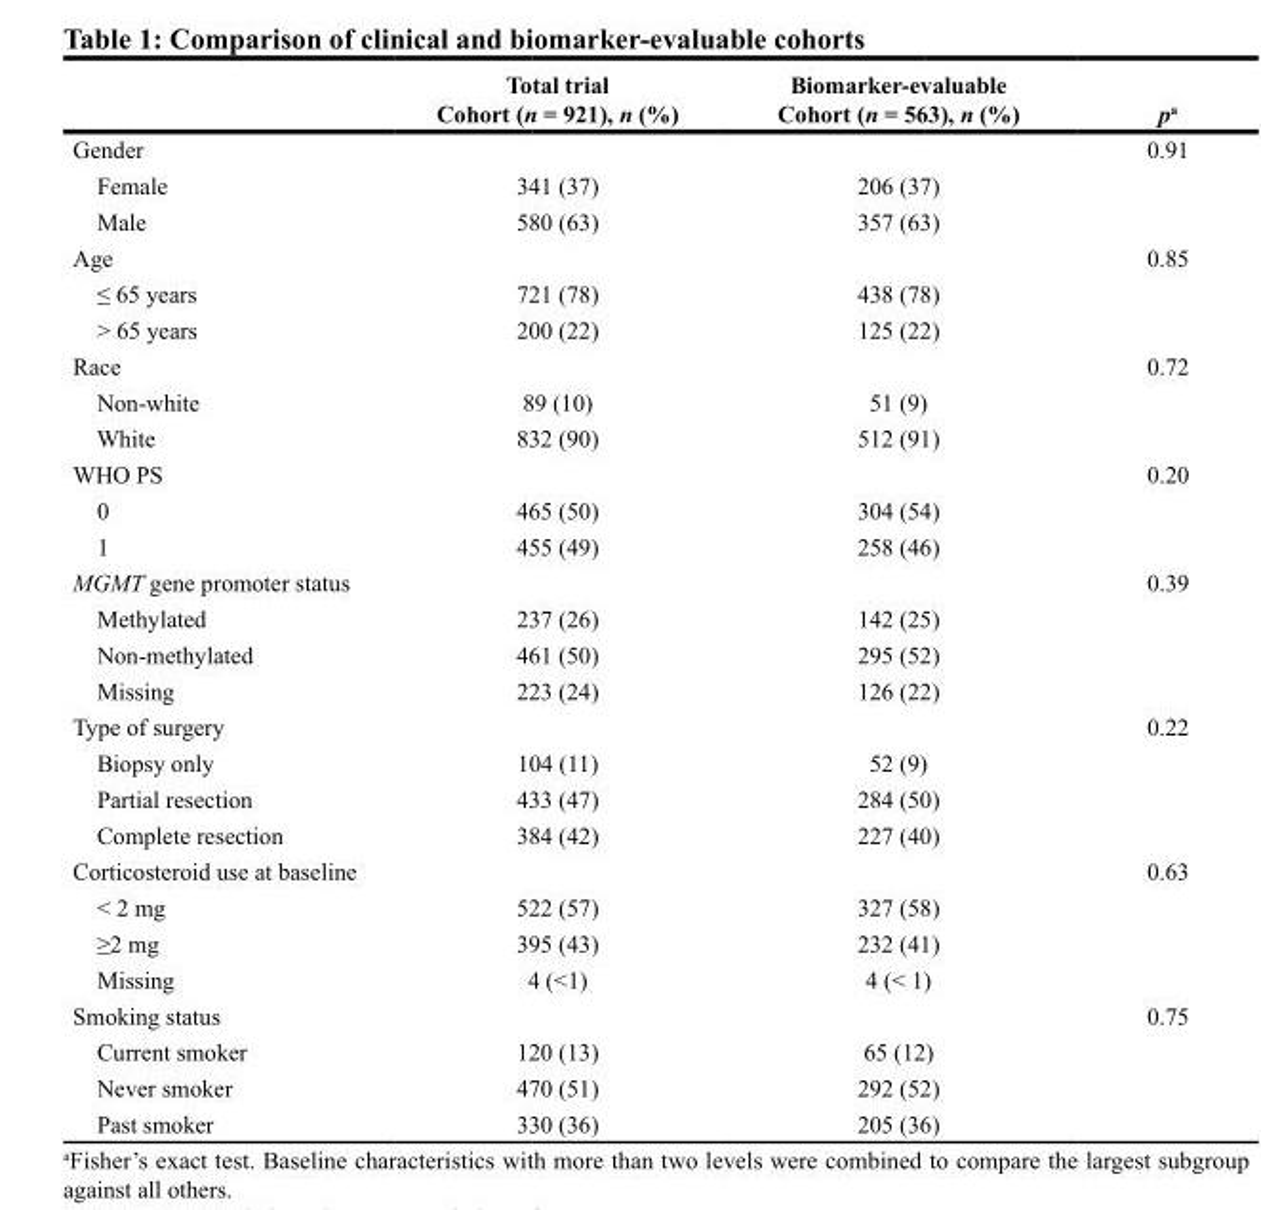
<table><thead><tr><td></td><td>Total trial Cohort (n = 921), n (%)</td><td>Biomarker-evaluable Cohort (n = 563), n (%)</td><td>p<sup>a</sup></td></tr></thead><tbody><tr><td>Gender</td><td></td><td></td><td>0.91</td></tr><tr><td>Female</td><td>341 (37)</td><td>206 (37)</td><td></td></tr><tr><td>Male</td><td>580 (63)</td><td>357 (63)</td><td></td></tr><tr><td>Age</td><td></td><td></td><td>0.85</td></tr><tr><td>≤ 65 years</td><td>721 (78)</td><td>438 (78)</td><td></td></tr><tr><td>&gt; 65 years</td><td>200 (22)</td><td>125 (22)</td><td></td></tr><tr><td>Race</td><td></td><td></td><td>0.72</td></tr><tr><td>Non-white</td><td>89 (10)</td><td>51 (9)</td><td></td></tr><tr><td>White</td><td>832 (90)</td><td>512 (91)</td><td></td></tr><tr><td>WHO PS</td><td></td><td></td><td>0.20</td></tr><tr><td>0</td><td>465 (50)</td><td>304 (54)</td><td></td></tr><tr><td>1</td><td>455 (49)</td><td>258 (46)</td><td></td></tr><tr><td>MGMT gene promoter status</td><td></td><td></td><td>0.39</td></tr><tr><td>Methylated</td><td>237 (26)</td><td>142 (25)</td><td></td></tr><tr><td>Non-methylated</td><td>461 (50)</td><td>295 (52)</td><td></td></tr><tr><td>Missing</td><td>223 (24)</td><td>126 (22)</td><td></td></tr><tr><td>Type of surgery</td><td></td><td></td><td>0.22</td></tr><tr><td>Biopsy only</td><td>104 (11)</td><td>52 (9)</td><td></td></tr><tr><td>Partial resection</td><td>433 (47)</td><td>284 (50)</td><td></td></tr><tr><td>Complete resection</td><td>384 (42)</td><td>227 (40)</td><td></td></tr><tr><td>Corticosteroid use at baseline</td><td></td><td></td><td>0.63</td></tr><tr><td>&lt; 2 mg</td><td>522 (57)</td><td>327 (58)</td><td></td></tr><tr><td>≥2 mg</td><td>395 (43)</td><td>232 (41)</td><td></td></tr><tr><td>Missing</td><td>4 (&lt;1)</td><td>4 (&lt; 1)</td><td></td></tr><tr><td>Smoking status</td><td></td><td></td><td>0.75</td></tr><tr><td>Current smoker</td><td>120 (13)</td><td>65 (12)</td><td></td></tr><tr><td>Never smoker</td><td>470 (51)</td><td>292 (52)</td><td></td></tr><tr><td>Past smoker</td><td>330 (36)</td><td>205 (36)</td><td></td></tr></tbody></table>